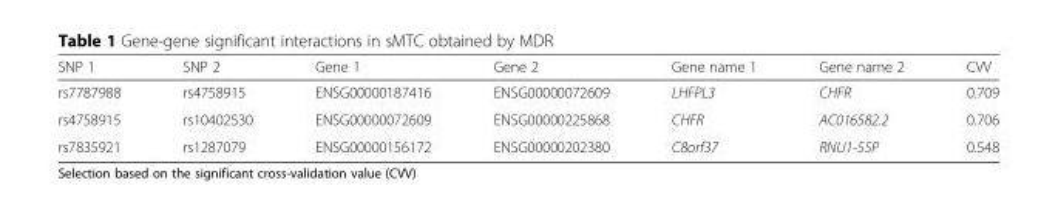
<table><thead><tr><td>SNP 1</td><td>SNP 2</td><td>Gene 1</td><td>Gene 2</td><td>Gene name 1</td><td>Gene name 2</td><td>CVV</td></tr></thead><tbody><tr><td>rs7787988</td><td>rs4758915</td><td>ENSG00000187416</td><td>ENSG00000072609</td><td>LHFPL3</td><td>CHFR</td><td>0.709</td></tr><tr><td>rs4758915</td><td>rs10402530</td><td>ENSG00000072609</td><td>ENSG00000225868</td><td>CHFR</td><td>AC016582.2</td><td>0.706</td></tr><tr><td>rs7835921</td><td>rs1287079</td><td>ENSG00000156172</td><td>ENSG00000202380</td><td>C8orf37</td><td>RNU1-55P</td><td>0.548</td></tr></tbody></table>